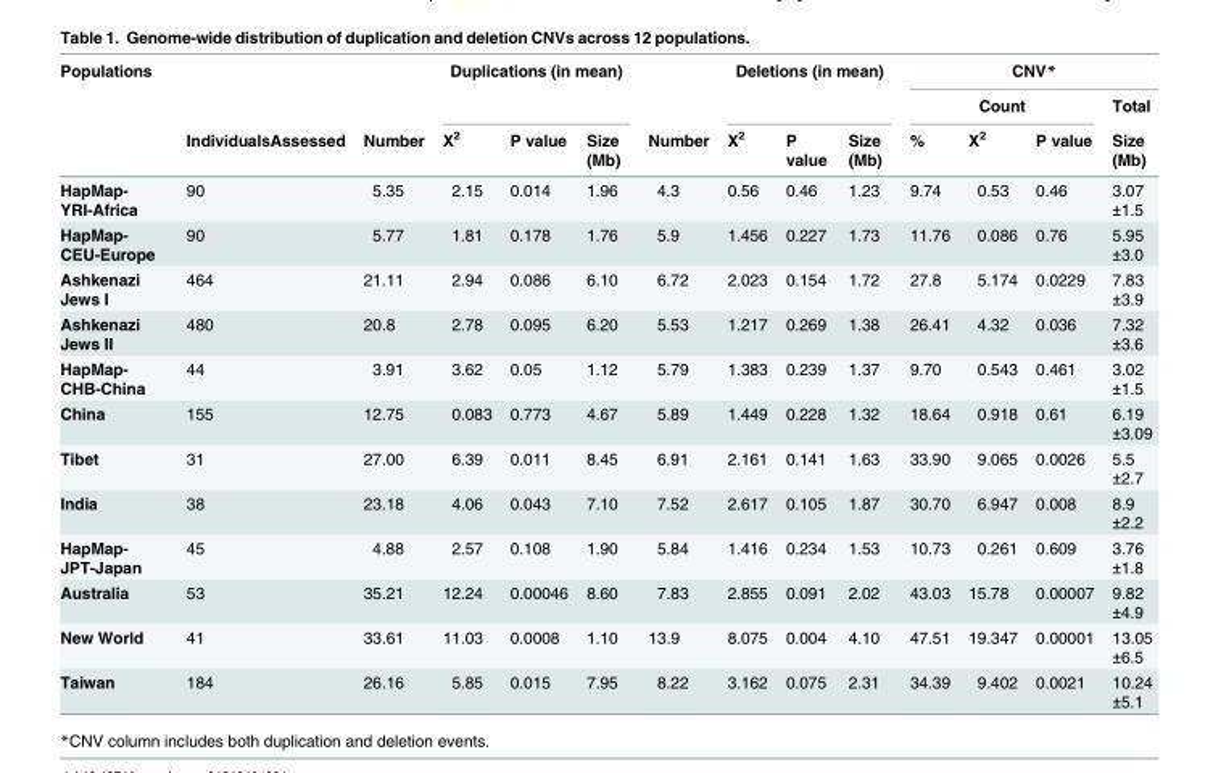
<table><thead><tr><td rowspan="3">Populations</td><td rowspan="3">IndividualsAssessed</td><td rowspan="3">Number</td><td colspan="3">Duplications (in mean)</td><td rowspan="3">Number</td><td colspan="3">Deletions (in mean)</td><td colspan="4">CNV*</td></tr><tr><td rowspan="2">X<sup>2</sup></td><td rowspan="2">P value</td><td rowspan="2">Size (Mb)</td><td rowspan="2">X<sup>2</sup></td><td rowspan="2">P value</td><td rowspan="2">Size (Mb)</td><td colspan="3">Count</td><td rowspan="2">Total Size (Mb)</td></tr><tr><td>%</td><td>X<sup>2</sup></td><td>P value</td></tr></thead><tbody><tr><td>HapMap- YRI-Africa</td><td>90</td><td>5.35</td><td>2.15</td><td>0.014</td><td>1.96</td><td>4.3</td><td>0.56</td><td>0.46</td><td>1.23</td><td>9.74</td><td>0.53</td><td>0.46</td><td>3.07 ±1.5</td></tr><tr><td>HapMap- CEU-Europe</td><td>90</td><td>5.77</td><td>1.81</td><td>0.178</td><td>1.76</td><td>5.9</td><td>1.456</td><td>0.227</td><td>1.73</td><td>11.76</td><td>0.086</td><td>0.76</td><td>5.95 ±3.0</td></tr><tr><td>Ashkenazi Jews I</td><td>464</td><td>21.11</td><td>2.94</td><td>0.086</td><td>6.10</td><td>6.72</td><td>2.023</td><td>0.154</td><td>1.72</td><td>27.8</td><td>5.174</td><td>0.0229</td><td>7.83 ±3.9</td></tr><tr><td>Ashkenazi Jews II</td><td>480</td><td>20.8</td><td>2.78</td><td>0.095</td><td>6.20</td><td>5.53</td><td>1.217</td><td>0.269</td><td>1.38</td><td>26.41</td><td>4.32</td><td>0.036</td><td>7.32 ±3.6</td></tr><tr><td>HapMap- CHB-China</td><td>44</td><td>3.91</td><td>3.62</td><td>0.05</td><td>1.12</td><td>5.79</td><td>1.383</td><td>0.239</td><td>1.37</td><td>9.70</td><td>0.543</td><td>0.461</td><td>3.02 ±1.5</td></tr><tr><td>China</td><td>155</td><td>12.75</td><td>0.083</td><td>0.773</td><td>4.67</td><td>5.89</td><td>1.449</td><td>0.228</td><td>1.32</td><td>18.64</td><td>0.918</td><td>0.61</td><td>6.19 ±3.09</td></tr><tr><td>Tibet</td><td>31</td><td>27.00</td><td>6.39</td><td>0.011</td><td>8.45</td><td>6.91</td><td>2.161</td><td>0.141</td><td>1.63</td><td>33.90</td><td>9.065</td><td>0.0026</td><td>5.5 ±2.7</td></tr><tr><td>India</td><td>38</td><td>23.18</td><td>4.06</td><td>0.043</td><td>7.10</td><td>7.52</td><td>2.617</td><td>0.105</td><td>1.87</td><td>30.70</td><td>6.947</td><td>0.008</td><td>8.9 ±2.2</td></tr><tr><td>HapMap- JPT-Japan</td><td>45</td><td>4.88</td><td>2.57</td><td>0.108</td><td>1.90</td><td>5.84</td><td>1.416</td><td>0.234</td><td>1.53</td><td>10.73</td><td>0.261</td><td>0.609</td><td>3.76 ±1.8</td></tr><tr><td>Australia</td><td>53</td><td>35.21</td><td>12.24</td><td>0.00046</td><td>8.60</td><td>7.83</td><td>2.855</td><td>0.091</td><td>2.02</td><td>43.03</td><td>15.78</td><td>0.00007</td><td>9.82 ±4.9</td></tr><tr><td>New World</td><td>41</td><td>33.61</td><td>11.03</td><td>0.0008</td><td>1.10</td><td>13.9</td><td>8.075</td><td>0.004</td><td>4.10</td><td>47.51</td><td>19.347</td><td>0.00001</td><td>13.05 ±6.5</td></tr><tr><td>Taiwan</td><td>184</td><td>26.16</td><td>5.85</td><td>0.015</td><td>7.95</td><td>8.22</td><td>3.162</td><td>0.075</td><td>2.31</td><td>34.39</td><td>9.402</td><td>0.0021</td><td>10.24 ±5.1</td></tr></tbody></table>